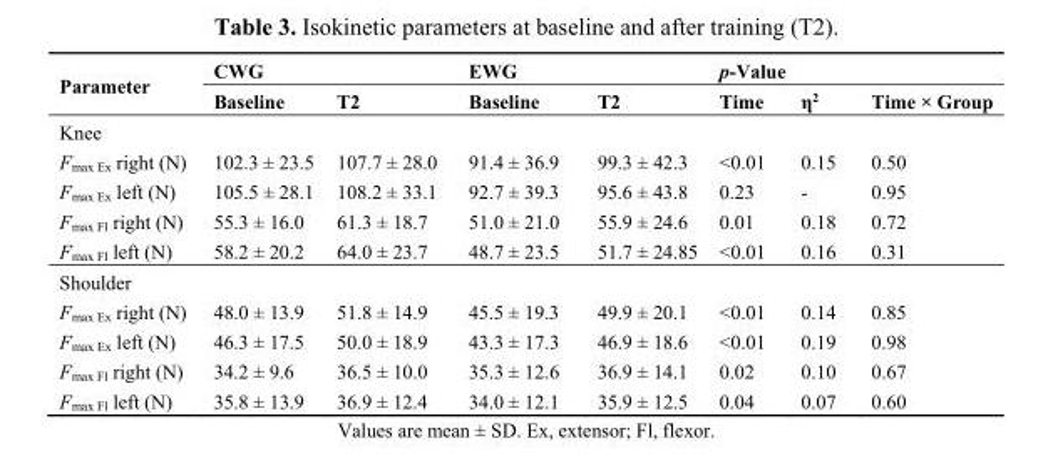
<table><thead><tr><td rowspan="2">Parameter</td><td colspan="2">CWG</td><td colspan="2">EWG</td><td colspan="3">p-Value</td></tr><tr><td>Baseline</td><td>T2</td><td>Baseline</td><td>T2</td><td>Time</td><td>η<sup>2</sup></td><td>Time × Group</td></tr></thead><tbody><tr><td colspan="8">Knee</td></tr><tr><td>F<sub>max Ex</sub> right (N)</td><td>102.3 ± 23.5</td><td>107.7 ± 28.0</td><td>91.4 ± 36.9</td><td>99.3 ± 42.3</td><td>&lt;0.01</td><td>0.15</td><td>0.50</td></tr><tr><td>F<sub>max Ex</sub> left (N)</td><td>105.5 ± 28.1</td><td>108.2 ± 33.1</td><td>92.7 ± 39.3</td><td>95.6 ± 43.8</td><td>0.23</td><td>-</td><td>0.95</td></tr><tr><td>F<sub>max Fl</sub> right (N)</td><td>55.3 ± 16.0</td><td>61.3 ± 18.7</td><td>51.0 ± 21.0</td><td>55.9 ± 24.6</td><td>0.01</td><td>0.18</td><td>0.72</td></tr><tr><td>F<sub>max Fl</sub> left (N)</td><td>58.2 ± 20.2</td><td>64.0 ± 23.7</td><td>48.7 ± 23.5</td><td>51.7 ± 24.85</td><td>&lt;0.01</td><td>0.16</td><td>0.31</td></tr><tr><td colspan="8">Shoulder</td></tr><tr><td>F<sub>max Ex</sub> right (N)</td><td>48.0 ± 13.9</td><td>51.8 ± 14.9</td><td>45.5 ± 19.3</td><td>49.9 ± 20.1</td><td>&lt;0.01</td><td>0.14</td><td>0.85</td></tr><tr><td>F<sub>max Ex</sub> left (N)</td><td>46.3 ± 17.5</td><td>50.0 ± 18.9</td><td>43.3 ± 17.3</td><td>46.9 ± 18.6</td><td>&lt;0.01</td><td>0.19</td><td>0.98</td></tr><tr><td>F<sub>max Fl</sub> right (N)</td><td>34.2 ± 9.6</td><td>36.5 ± 10.0</td><td>35.3 ± 12.6</td><td>36.9 ± 14.1</td><td>0.02</td><td>0.10</td><td>0.67</td></tr><tr><td>F<sub>max Fl</sub> left (N)</td><td>35.8 ± 13.9</td><td>36.9 ± 12.4</td><td>34.0 ± 12.1</td><td>35.9 ± 12.5</td><td>0.04</td><td>0.07</td><td>0.60</td></tr></tbody></table>